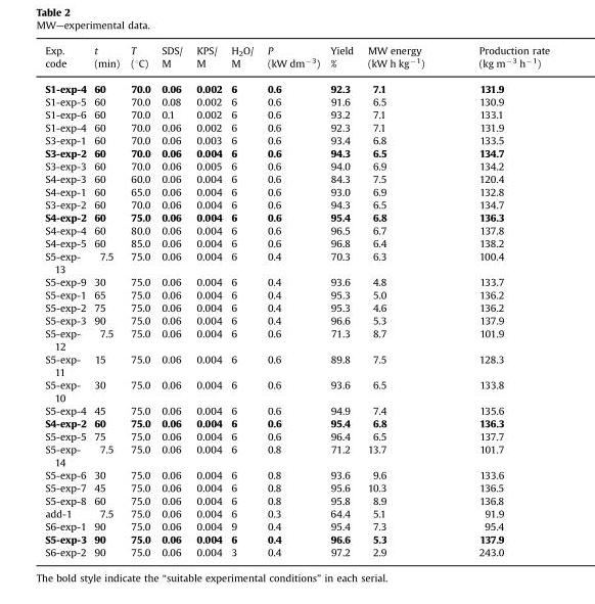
<table><thead><tr><td>Exp. code</td><td>t (min)</td><td>T (°C)</td><td>SDS/ M</td><td>KPS/ M</td><td>H<sub>2</sub>O/ M</td><td>P (kW dm<sup>−3</sup>)</td><td>Yield %</td><td>MW energy (kW h kg<sup>−1</sup>)</td><td>Production rate (kg m<sup>−3</sup> h<sup>−1</sup>)</td></tr></thead><tbody><tr><td>S1-exp-4</td><td>60</td><td>70.0</td><td>0.06</td><td>0.002</td><td>6</td><td>0.6</td><td>92.3</td><td>7.1</td><td>131.9</td></tr><tr><td>S1-exp-5</td><td>60</td><td>70.0</td><td>0.08</td><td>0.002</td><td>6</td><td>0.6</td><td>91.6</td><td>6.5</td><td>130.9</td></tr><tr><td>S1-exp-6</td><td>60</td><td>70.0</td><td>0.1</td><td>0.002</td><td>6</td><td>0.6</td><td>93.2</td><td>7.1</td><td>133.1</td></tr><tr><td>S1-exp-4</td><td>60</td><td>70.0</td><td>0.06</td><td>0.002</td><td>6</td><td>0.6</td><td>92.3</td><td>7.1</td><td>131.9</td></tr><tr><td>S3-exp-1</td><td>60</td><td>70.0</td><td>0.06</td><td>0.003</td><td>6</td><td>0.6</td><td>93.4</td><td>6.8</td><td>133.5</td></tr><tr><td>S3-exp-2</td><td>60</td><td>70.0</td><td>0.06</td><td>0.004</td><td>6</td><td>0.6</td><td>94.3</td><td>6.5</td><td>134.7</td></tr><tr><td>S3-exp-3</td><td>60</td><td>70.0</td><td>0.06</td><td>0.005</td><td>6</td><td>0.6</td><td>94.0</td><td>6.9</td><td>134.2</td></tr><tr><td>S4-exp-3</td><td>60</td><td>60.0</td><td>0.06</td><td>0.004</td><td>6</td><td>0.6</td><td>84.3</td><td>7.5</td><td>120.4</td></tr><tr><td>S4-exp-1</td><td>60</td><td>65.0</td><td>0.06</td><td>0.004</td><td>6</td><td>0.6</td><td>93.0</td><td>6.9</td><td>132.8</td></tr><tr><td>S3-exp-2</td><td>60</td><td>70.0</td><td>0.06</td><td>0.004</td><td>6</td><td>0.6</td><td>94.3</td><td>6.5</td><td>134.7</td></tr><tr><td>S4-exp-2</td><td>60</td><td>75.0</td><td>0.06</td><td>0.004</td><td>6</td><td>0.6</td><td>95.4</td><td>6.8</td><td>136.3</td></tr><tr><td>S4-exp-4</td><td>60</td><td>80.0</td><td>0.06</td><td>0.004</td><td>6</td><td>0.6</td><td>96.5</td><td>6.7</td><td>137.8</td></tr><tr><td>S4-exp-5</td><td>60</td><td>85.0</td><td>0.06</td><td>0.004</td><td>6</td><td>0.6</td><td>96.8</td><td>6.4</td><td>138.2</td></tr><tr><td>S5-exp- 13</td><td>7.5</td><td>75.0</td><td>0.06</td><td>0.004</td><td>6</td><td>0.4</td><td>70.3</td><td>6.3</td><td>100.4</td></tr><tr><td>S5-exp-9</td><td>30</td><td>75.0</td><td>0.06</td><td>0.004</td><td>6</td><td>0.4</td><td>93.6</td><td>4.8</td><td>133.7</td></tr><tr><td>S5-exp-1</td><td>65</td><td>75.0</td><td>0.06</td><td>0.004</td><td>6</td><td>0.4</td><td>95.3</td><td>5.0</td><td>136.2</td></tr><tr><td>S5-exp-2</td><td>75</td><td>75.0</td><td>0.06</td><td>0.004</td><td>6</td><td>0.4</td><td>95.3</td><td>4.6</td><td>136.2</td></tr><tr><td>S5-exp-3</td><td>90</td><td>75.0</td><td>0.06</td><td>0.004</td><td>6</td><td>0.4</td><td>96.6</td><td>5.3</td><td>137.9</td></tr><tr><td>S5-exp- 12</td><td>7.5</td><td>75.0</td><td>0.06</td><td>0.004</td><td>6</td><td>0.6</td><td>71.3</td><td>8.7</td><td>101.9</td></tr><tr><td>S5-exp- 11</td><td>15</td><td>75.0</td><td>0.06</td><td>0.004</td><td>6</td><td>0.6</td><td>89.8</td><td>7.5</td><td>128.3</td></tr><tr><td>S5-exp- 10</td><td>30</td><td>75.0</td><td>0.06</td><td>0.004</td><td>6</td><td>0.6</td><td>93.6</td><td>6.5</td><td>133.8</td></tr><tr><td>S5-exp-4</td><td>45</td><td>75.0</td><td>0.06</td><td>0.004</td><td>6</td><td>0.6</td><td>94.9</td><td>7.4</td><td>135.6</td></tr><tr><td>S4-exp-2</td><td>60</td><td>75.0</td><td>0.06</td><td>0.004</td><td>6</td><td>0.6</td><td>95.4</td><td>6.8</td><td>136.3</td></tr><tr><td>S5-exp-5</td><td>75</td><td>75.0</td><td>0.06</td><td>0.004</td><td>6</td><td>0.6</td><td>96.4</td><td>6.5</td><td>137.7</td></tr><tr><td>S5-exp- 14</td><td>7.5</td><td>75.0</td><td>0.06</td><td>0.004</td><td>6</td><td>0.8</td><td>71.2</td><td>13.7</td><td>101.7</td></tr><tr><td>S5-exp-6</td><td>30</td><td>75.0</td><td>0.06</td><td>0.004</td><td>6</td><td>0.8</td><td>93.6</td><td>9.6</td><td>133.6</td></tr><tr><td>S5-exp-7</td><td>45</td><td>75.0</td><td>0.06</td><td>0.004</td><td>6</td><td>0.8</td><td>95.6</td><td>10.3</td><td>136.5</td></tr><tr><td>S5-exp-8</td><td>60</td><td>75.0</td><td>0.06</td><td>0.004</td><td>6</td><td>0.8</td><td>95.8</td><td>8.9</td><td>136.8</td></tr><tr><td>add-1</td><td>7.5</td><td>75.0</td><td>0.06</td><td>0.004</td><td>6</td><td>0.3</td><td>64.4</td><td>5.1</td><td>91.9</td></tr><tr><td>S6-exp-1</td><td>90</td><td>75.0</td><td>0.06</td><td>0.004</td><td>9</td><td>0.4</td><td>95.4</td><td>7.3</td><td>95.4</td></tr><tr><td>S5-exp-3</td><td>90</td><td>75.0</td><td>0.06</td><td>0.004</td><td>6</td><td>0.4</td><td>96.6</td><td>5.3</td><td>137.9</td></tr><tr><td>S6-exp-2</td><td>90</td><td>75.0</td><td>0.06</td><td>0.004</td><td>3</td><td>0.4</td><td>97.2</td><td>2.9</td><td>243.0</td></tr></tbody></table>